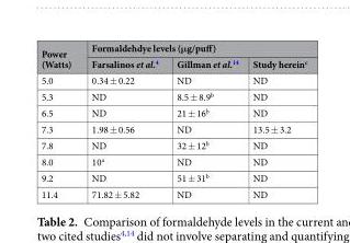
<table><thead><tr><td rowspan="2">Power (Watts)</td><td colspan="3">Formaldehdye levels (μg/puff)</td></tr><tr><td>Farsalinos et al.<sup>4</sup></td><td>Gillman et al.<sup>14</sup></td><td>Study herein<sup>c</sup></td></tr></thead><tbody><tr><td>5.0</td><td>0.34 ± 0.22</td><td>ND</td><td>ND</td></tr><tr><td>5.3</td><td>ND</td><td>8.5 ± 8.9<sup>b</sup></td><td>ND</td></tr><tr><td>6.5</td><td>ND</td><td>21 ± 16<sup>b</sup></td><td>ND</td></tr><tr><td>7.3</td><td>1.98 ± 0.56</td><td>ND</td><td>13.5 ± 3.2</td></tr><tr><td>7.8</td><td>ND</td><td>32 ± 12<sup>b</sup></td><td>ND</td></tr><tr><td>8.0</td><td>10<sup>a</sup></td><td>ND</td><td>ND</td></tr><tr><td>9.2</td><td>ND</td><td>51 ± 31<sup>b</sup></td><td>ND</td></tr><tr><td>11.4</td><td>71.82 ± 5.82</td><td>ND</td><td>ND</td></tr></tbody></table>